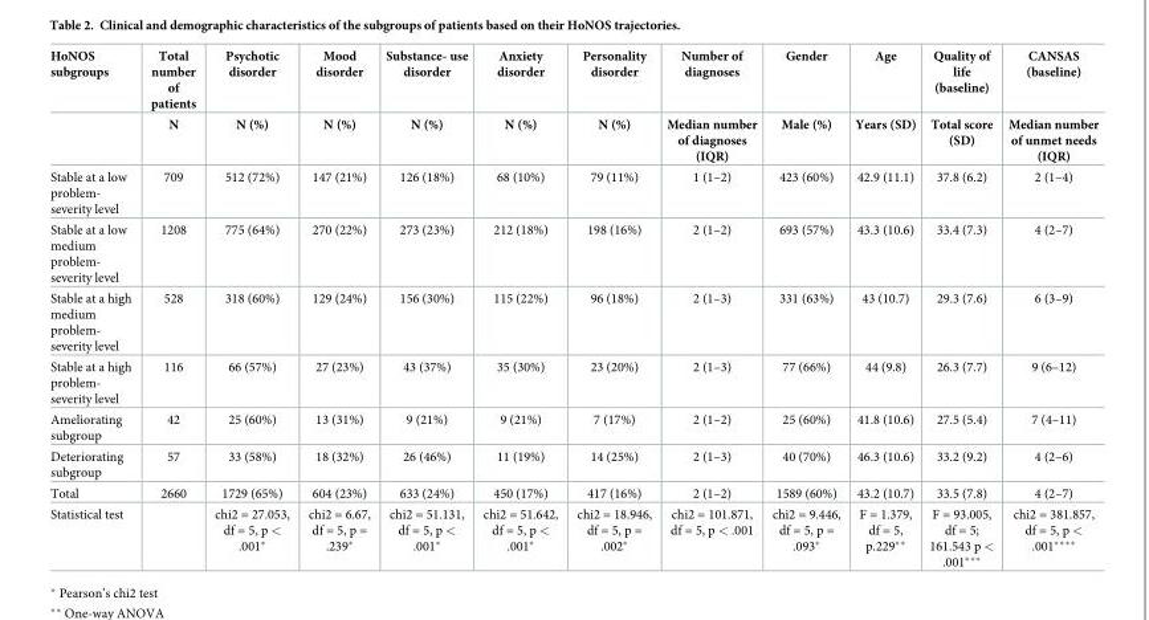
<table><thead><tr><td rowspan="2">HoNOS subgroups</td><td rowspan="2">Total number of patients N</td><td rowspan="2">Psychotic disorder N (%)</td><td rowspan="2">Mood disorder N (%)</td><td rowspan="2">Substance- use disorder N (%)</td><td rowspan="2">Anxiety disorder N (%)</td><td rowspan="2">Personality disorder N (%)</td><td rowspan="2">Number of diagnoses Median number of diagnoses (IQR)</td><td rowspan="2">Gender Male (%)</td><td rowspan="2">Age Years (SD)</td><td rowspan="2">Quality of life (baseline) Total score (SD)</td><td rowspan="2">CANSAS (baseline) Median number of unmet needs (IQR)</td></tr><tr></tr></thead><tbody><tr><td>Stable at a low problem- severity level</td><td>709</td><td>512 (72%)</td><td>147 (21%)</td><td>126 (18%)</td><td>68 (10%)</td><td>79 (11%)</td><td>1 (1–2)</td><td>423 (60%)</td><td>42.9 (11.1)</td><td>37.8 (6.2)</td><td>2 (1–4)</td></tr><tr><td>Stable at a low medium problem- severity level</td><td>1208</td><td>775 (64%)</td><td>270 (22%)</td><td>273 (23%)</td><td>212 (18%)</td><td>198 (16%)</td><td>2 (1–2)</td><td>693 (57%)</td><td>43.3 (10.6)</td><td>33.4 (7.3)</td><td>4 (2–7)</td></tr><tr><td>Stable at a high medium problem- severity level</td><td>528</td><td>318 (60%)</td><td>129 (24%)</td><td>156 (30%)</td><td>115 (22%)</td><td>96 (18%)</td><td>2 (1–3)</td><td>331 (63%)</td><td>43 (10.7)</td><td>29.3 (7.6)</td><td>6 (3–9)</td></tr><tr><td>Stable at a high problem- severity level</td><td>116</td><td>66 (57%)</td><td>27 (23%)</td><td>43 (37%)</td><td>35 (30%)</td><td>23 (20%)</td><td>2 (1–3)</td><td>77 (66%)</td><td>44 (9.8)</td><td>26.3 (7.7)</td><td>9 (6–12)</td></tr><tr><td>Ameliorating subgroup</td><td>42</td><td>25 (60%)</td><td>13 (31%)</td><td>9 (21%)</td><td>9 (21%)</td><td>7 (17%)</td><td>2 (1–2)</td><td>25 (60%)</td><td>41.8 (10.6)</td><td>27.5 (5.4)</td><td>7 (4–11)</td></tr><tr><td>Deteriorating subgroup</td><td>57</td><td>33 (58%)</td><td>18 (32%)</td><td>26 (46%)</td><td>11 (19%)</td><td>14 (25%)</td><td>2 (1–3)</td><td>40 (70%)</td><td>46.3 (10.6)</td><td>33.2 (9.2)</td><td>4 (2–6)</td></tr><tr><td>Total</td><td>2660</td><td>1729 (65%)</td><td>604 (23%)</td><td>633 (24%)</td><td>450 (17%)</td><td>417 (16%)</td><td>2 (1–2)</td><td>1589 (60%)</td><td>43.2 (10.7)</td><td>33.5 (7.8)</td><td>4 (2–7)</td></tr><tr><td>Statistical test</td><td></td><td>chi2 = 27.053, df = 5, p &lt; .001*</td><td>chi2 = 6.67, df = 5, p = .239*</td><td>chi2 = 51.131, df = 5, p &lt; .001*</td><td>chi2 = 51.642, df = 5, p &lt; .001*</td><td>chi2 = 18.946, df = 5, p = .002*</td><td>chi2 = 101.871, df = 5, p &lt; .001</td><td>chi2 = 9.446, df = 5, p = .093*</td><td>F = 1.379, df = 5, p.229**</td><td>F = 93.005, df = 5; 161.543 p &lt; .001***</td><td>chi2 = 381.857, df = 5, p &lt; .001****</td></tr></tbody></table>